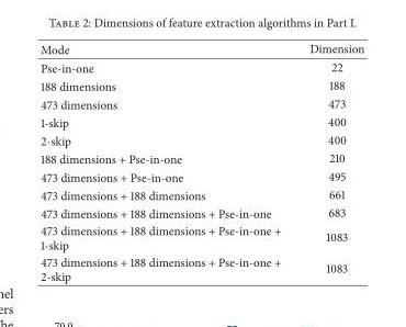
<table><thead><tr><td>Mode</td><td>Dimension</td></tr></thead><tbody><tr><td>Pse-in-one</td><td>22</td></tr><tr><td>188 dimensions</td><td>188</td></tr><tr><td>473 dimensions</td><td>473</td></tr><tr><td>1-skip</td><td>400</td></tr><tr><td>2-skip</td><td>400</td></tr><tr><td>188 dimensions + Pse-in-one</td><td>210</td></tr><tr><td>473 dimensions + Pse-in-one</td><td>495</td></tr><tr><td>473 dimensions + 188 dimensions</td><td>661</td></tr><tr><td>473 dimensions + 188 dimensions + Pse-in-one</td><td>683</td></tr><tr><td>473 dimensions + 188 dimensions + Pse-in-one + 1-skip</td><td>1083</td></tr><tr><td>473 dimensions + 188 dimensions + Pse-in-one + 2-skip</td><td>1083</td></tr></tbody></table>